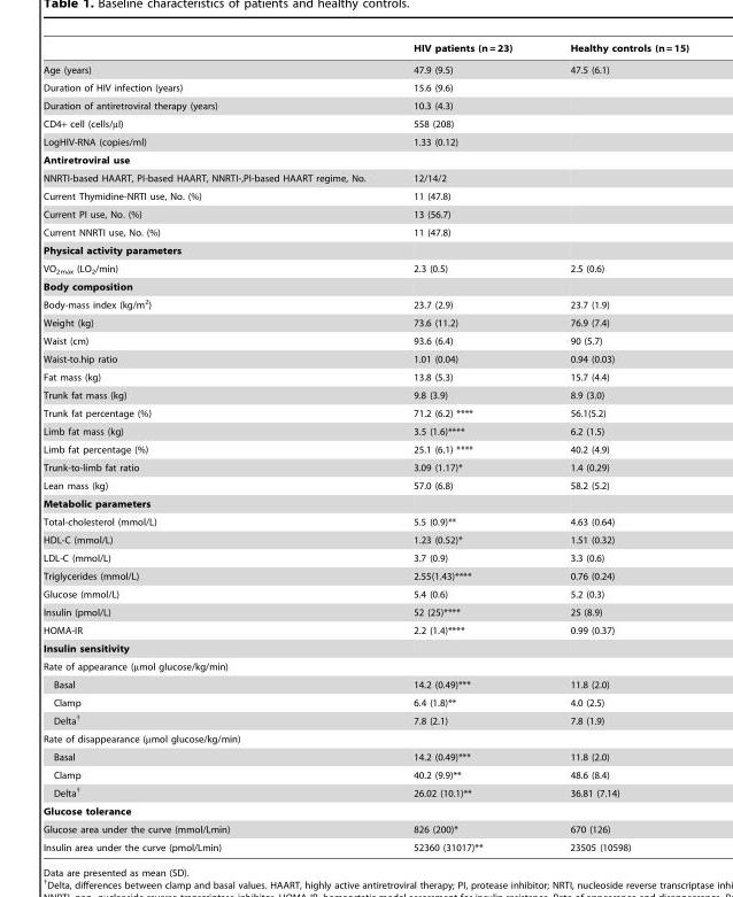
<table><thead><tr><td></td><td>HIV patients (n = 23)</td><td>Healthy controls (n = 15)</td></tr></thead><tbody><tr><td>Age (years)</td><td>47.9 (9.5)</td><td>47.5 (6.1)</td></tr><tr><td>Duration of HIV infection (years)</td><td>15.6 (9.6)</td><td></td></tr><tr><td>Duration of antiretroviral therapy (years)</td><td>10.3 (4.3)</td><td></td></tr><tr><td>CD4+ cell (cells/µl)</td><td>558 (208)</td><td></td></tr><tr><td>LogHIV-RNA (copies/ml)</td><td>1.33 (0.12)</td><td></td></tr><tr><td colspan="3">Antiretroviral use</td></tr><tr><td>NNRTI-based HAART, PI-based HAART, NNRTI-,PI-based HAART regime, No.</td><td>12/14/2</td><td></td></tr><tr><td>Current Thymidine-NRTI use, No. (%)</td><td>11 (47.8)</td><td></td></tr><tr><td>Current PI use, No. (%)</td><td>13 (56.7)</td><td></td></tr><tr><td>Current NNRTI use, No. (%)</td><td>11 (47.8)</td><td></td></tr><tr><td colspan="3">Physical activity parameters</td></tr><tr><td>VO<sub>2max</sub> (LO<sub>2</sub>/min)</td><td>2.3 (0.5)</td><td>2.5 (0.6)</td></tr><tr><td colspan="3">Body composition</td></tr><tr><td>Body-mass index (kg/m<sup>2</sup>)</td><td>23.7 (2.9)</td><td>23.7 (1.9)</td></tr><tr><td>Weight (kg)</td><td>73.6 (11.2)</td><td>76.9 (7.4)</td></tr><tr><td>Waist (cm)</td><td>93.6 (6.4)</td><td>90 (5.7)</td></tr><tr><td>Waist-to.hip ratio</td><td>1.01 (0.04)</td><td>0.94 (0.03)</td></tr><tr><td>Fat mass (kg)</td><td>13.8 (5.3)</td><td>15.7 (4.4)</td></tr><tr><td>Trunk fat mass (kg)</td><td>9.8 (3.9)</td><td>8.9 (3.0)</td></tr><tr><td>Trunk fat percentage (%)</td><td>71.2 (6.2) ****</td><td>56.1(5.2)</td></tr><tr><td>Limb fat mass (kg)</td><td>3.5 (1.6)****</td><td>6.2 (1.5)</td></tr><tr><td>Limb fat percentage (%)</td><td>25.1 (6.1) ****</td><td>40.2 (4.9)</td></tr><tr><td>Trunk-to-limb fat ratio</td><td>3.09 (1.17)*</td><td>1.4 (0.29)</td></tr><tr><td>Lean mass (kg)</td><td>57.0 (6.8)</td><td>58.2 (5.2)</td></tr><tr><td colspan="3">Metabolic parameters</td></tr><tr><td>Total-cholesterol (mmol/L)</td><td>5.5 (0.9)**</td><td>4.63 (0.64)</td></tr><tr><td>HDL-C (mmol/L)</td><td>1.23 (0.52)*</td><td>1.51 (0.32)</td></tr><tr><td>LDL-C (mmol/L)</td><td>3.7 (0.9)</td><td>3.3 (0.6)</td></tr><tr><td>Triglycerides (mmol/L)</td><td>2.55(1.43)****</td><td>0.76 (0.24)</td></tr><tr><td>Glucose (mmol/L)</td><td>5.4 (0.6)</td><td>5.2 (0.3)</td></tr><tr><td>Insulin (pmol/L)</td><td>52 (25)****</td><td>25 (8.9)</td></tr><tr><td>HOMA-IR</td><td>2.2 (1.4)****</td><td>0.99 (0.37)</td></tr><tr><td colspan="3">Insulin sensitivity</td></tr><tr><td colspan="3">Rate of appearance (µmol glucose/kg/min)</td></tr><tr><td>Basal</td><td>14.2 (0.49)***</td><td>11.8 (2.0)</td></tr><tr><td>Clamp</td><td>6.4 (1.8)**</td><td>4.0 (2.5)</td></tr><tr><td>Delta†</td><td>7.8 (2.1)</td><td>7.8 (1.9)</td></tr><tr><td colspan="3">Rate of disappearance (µmol glucose/kg/min)</td></tr><tr><td>Basal</td><td>14.2 (0.49)***</td><td>11.8 (2.0)</td></tr><tr><td>Clamp</td><td>40.2 (9.9)**</td><td>48.6 (8.4)</td></tr><tr><td>Delta†</td><td>26.02 (10.1)**</td><td>36.81 (7.14)</td></tr><tr><td colspan="3">Glucose tolerance</td></tr><tr><td>Glucose area under the curve (mmol/Lmin)</td><td>826 (200)*</td><td>670 (126)</td></tr><tr><td>Insulin area under the curve (pmol/Lmin)</td><td>52360 (31017)**</td><td>23505 (10598)</td></tr></tbody></table>